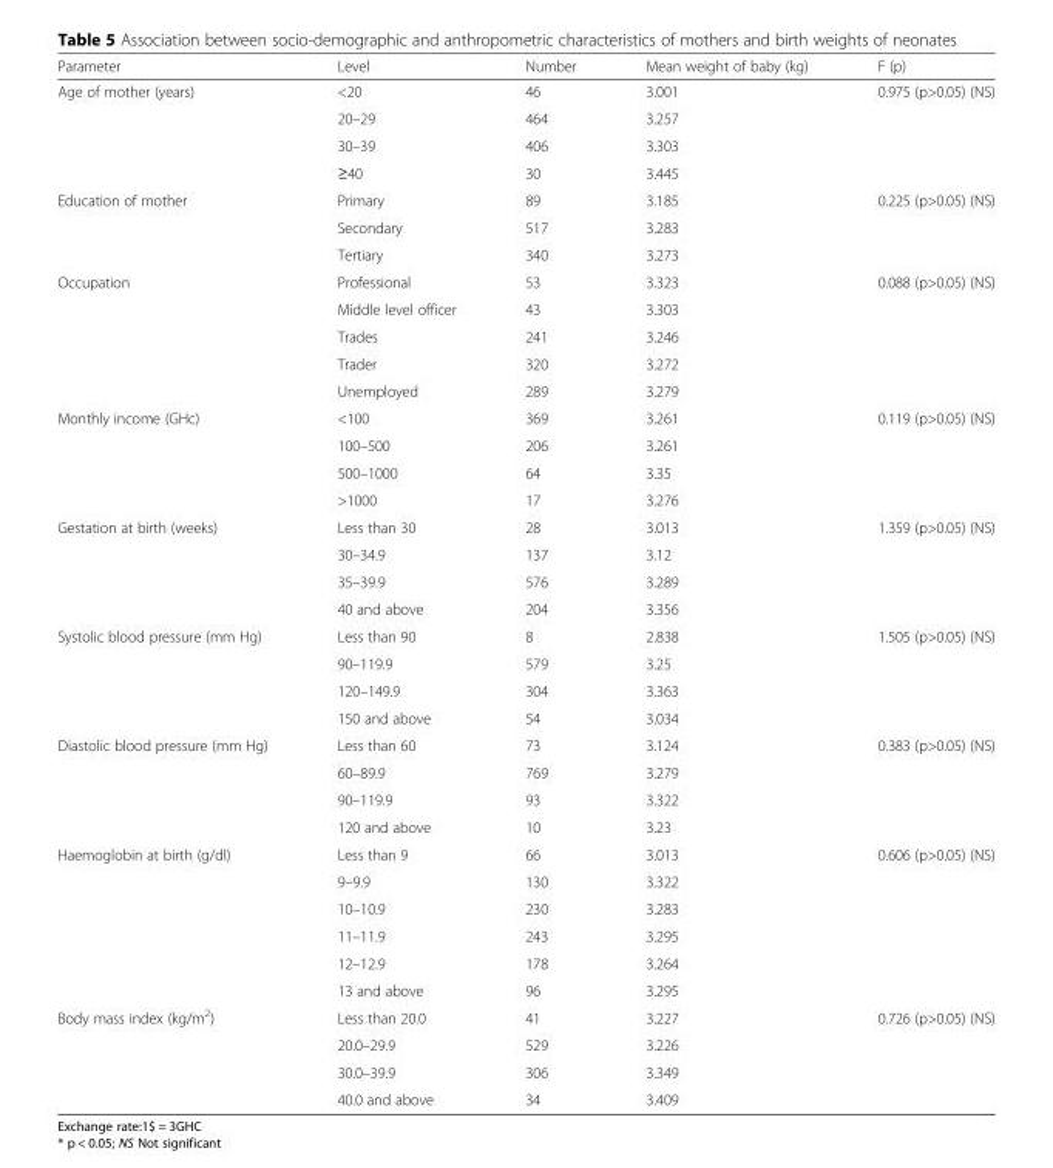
<table><thead><tr><td>Parameter</td><td>Level</td><td>Number</td><td>Mean weight of baby (kg)</td><td>F (p)</td></tr></thead><tbody><tr><td rowspan="4">Age of mother (years)</td><td>&lt;20</td><td>46</td><td>3.001</td><td>0.975 (p&gt;0.05) (NS)</td></tr><tr><td>20–29</td><td>464</td><td>3.257</td><td></td></tr><tr><td>30–39</td><td>406</td><td>3.303</td><td></td></tr><tr><td>≥40</td><td>30</td><td>3.445</td><td></td></tr><tr><td rowspan="3">Education of mother</td><td>Primary</td><td>89</td><td>3.185</td><td>0.225 (p&gt;0.05) (NS)</td></tr><tr><td>Secondary</td><td>517</td><td>3.283</td><td></td></tr><tr><td>Tertiary</td><td>340</td><td>3.273</td><td></td></tr><tr><td rowspan="5">Occupation</td><td>Professional</td><td>53</td><td>3.323</td><td>0.088 (p&gt;0.05) (NS)</td></tr><tr><td>Middle level officer</td><td>43</td><td>3.303</td><td></td></tr><tr><td>Trades</td><td>241</td><td>3.246</td><td></td></tr><tr><td>Trader</td><td>320</td><td>3.272</td><td></td></tr><tr><td>Unemployed</td><td>289</td><td>3.279</td><td></td></tr><tr><td rowspan="4">Monthly income (GHc)</td><td>&lt;100</td><td>369</td><td>3.261</td><td>0.119 (p&gt;0.05) (NS)</td></tr><tr><td>100–500</td><td>206</td><td>3.261</td><td></td></tr><tr><td>500–1000</td><td>64</td><td>3.35</td><td></td></tr><tr><td>&gt;1000</td><td>17</td><td>3.276</td><td></td></tr><tr><td rowspan="4">Gestation at birth (weeks)</td><td>Less than 30</td><td>28</td><td>3.013</td><td>1.359 (p&gt;0.05) (NS)</td></tr><tr><td>30–34.9</td><td>137</td><td>3.12</td><td></td></tr><tr><td>35–39.9</td><td>576</td><td>3.289</td><td></td></tr><tr><td>40 and above</td><td>204</td><td>3.356</td><td></td></tr><tr><td rowspan="4">Systolic blood pressure (mm Hg)</td><td>Less than 90</td><td>8</td><td>2.838</td><td>1.505 (p&gt;0.05) (NS)</td></tr><tr><td>90–119.9</td><td>579</td><td>3.25</td><td></td></tr><tr><td>120–149.9</td><td>304</td><td>3.363</td><td></td></tr><tr><td>150 and above</td><td>54</td><td>3.034</td><td></td></tr><tr><td rowspan="4">Diastolic blood pressure (mm Hg)</td><td>Less than 60</td><td>73</td><td>3.124</td><td>0.383 (p&gt;0.05) (NS)</td></tr><tr><td>60–89.9</td><td>769</td><td>3.279</td><td></td></tr><tr><td>90–119.9</td><td>93</td><td>3.322</td><td></td></tr><tr><td>120 and above</td><td>10</td><td>3.23</td><td></td></tr><tr><td rowspan="6">Haemoglobin at birth (g/dl)</td><td>Less than 9</td><td>66</td><td>3.013</td><td>0.606 (p&gt;0.05) (NS)</td></tr><tr><td>9–9.9</td><td>130</td><td>3.322</td><td></td></tr><tr><td>10–10.9</td><td>230</td><td>3.283</td><td></td></tr><tr><td>11–11.9</td><td>243</td><td>3.295</td><td></td></tr><tr><td>12–12.9</td><td>178</td><td>3.264</td><td></td></tr><tr><td>13 and above</td><td>96</td><td>3.295</td><td></td></tr><tr><td rowspan="4">Body mass index (kg/m<sup>2</sup>)</td><td>Less than 20.0</td><td>41</td><td>3.227</td><td>0.726 (p&gt;0.05) (NS)</td></tr><tr><td>20.0–29.9</td><td>529</td><td>3.226</td><td></td></tr><tr><td>30.0–39.9</td><td>306</td><td>3.349</td><td></td></tr><tr><td>40.0 and above</td><td>34</td><td>3.409</td><td></td></tr></tbody></table>